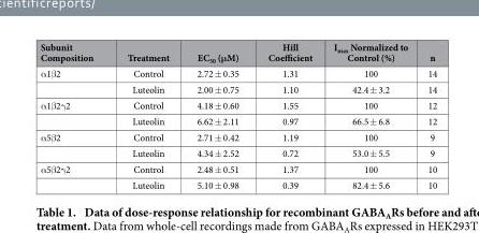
<table><thead><tr><td>Subunit Composition</td><td>Treatment</td><td>EC<sub>50</sub> (μM)</td><td>Hill Coefficient</td><td>I<sub>max</sub> Normalized to Control (%)</td><td>n</td></tr></thead><tbody><tr><td rowspan="2">α 1β 2</td><td>Control</td><td>2.72 ± 0.35</td><td>1.31</td><td>100</td><td>14</td></tr><tr><td>Luteolin</td><td>2.00 ± 0.75</td><td>1.10</td><td>42.4 ± 3.2</td><td>14</td></tr><tr><td rowspan="2">α 1β 2γ 2</td><td>Control</td><td>4.18 ± 0.60</td><td>1.55</td><td>100</td><td>12</td></tr><tr><td>Luteolin</td><td>6.62 ± 2.11</td><td>0.97</td><td>66.5 ± 6.8</td><td>12</td></tr><tr><td rowspan="2">α 5β 2</td><td>Control</td><td>2.71 ± 0.42</td><td>1.19</td><td>100</td><td>9</td></tr><tr><td>Luteolin</td><td>4.34 ± 2.52</td><td>0.72</td><td>53.0 ± 5.5</td><td>9</td></tr><tr><td rowspan="2">α 5β 2γ 2</td><td>Control</td><td>2.48 ± 0.51</td><td>1.37</td><td>100</td><td>10</td></tr><tr><td>Luteolin</td><td>5.10 ± 0.98</td><td>0.39</td><td>82.4 ± 5.6</td><td>10</td></tr></tbody></table>